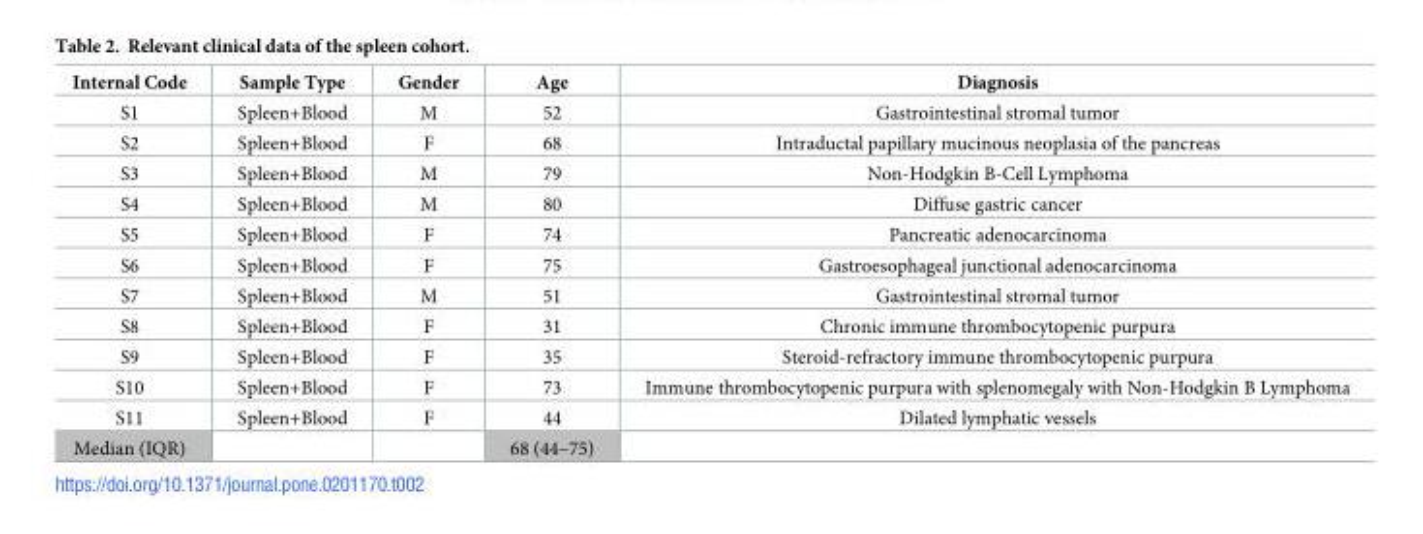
<table><thead><tr><td>Internal Code</td><td>Sample Type</td><td>Gender</td><td>Age</td><td>Diagnosis</td></tr></thead><tbody><tr><td>S1</td><td>Spleen+Blood</td><td>M</td><td>52</td><td>Gastrointestinal stromal tumor</td></tr><tr><td>S2</td><td>Spleen+Blood</td><td>F</td><td>68</td><td>Intraductal papillary mucinous neoplasia of the pancreas</td></tr><tr><td>S3</td><td>Spleen+Blood</td><td>M</td><td>79</td><td>Non-Hodgkin B-Cell Lymphoma</td></tr><tr><td>S4</td><td>Spleen+Blood</td><td>M</td><td>80</td><td>Diffuse gastric cancer</td></tr><tr><td>S5</td><td>Spleen+Blood</td><td>F</td><td>74</td><td>Pancreatic adenocarcinoma</td></tr><tr><td>S6</td><td>Spleen+Blood</td><td>F</td><td>75</td><td>Gastroesophageal junctional adenocarcinoma</td></tr><tr><td>S7</td><td>Spleen+Blood</td><td>M</td><td>51</td><td>Gastrointestinal stromal tumor</td></tr><tr><td>S8</td><td>Spleen+Blood</td><td>F</td><td>31</td><td>Chronic immune thrombocytopenic purpura</td></tr><tr><td>S9</td><td>Spleen+Blood</td><td>F</td><td>35</td><td>Steroid-refractory immune thrombocytopenic purpura</td></tr><tr><td>S10</td><td>Spleen+Blood</td><td>F</td><td>73</td><td>Immune thrombocytopenic purpura with splenomegaly with Non-Hodgkin B Lymphoma</td></tr><tr><td>S11</td><td>Spleen+Blood</td><td>F</td><td>44</td><td>Dilated lymphatic vessels</td></tr><tr><td>Median (IQR)</td><td></td><td></td><td>68 (44–75)</td><td></td></tr></tbody></table>